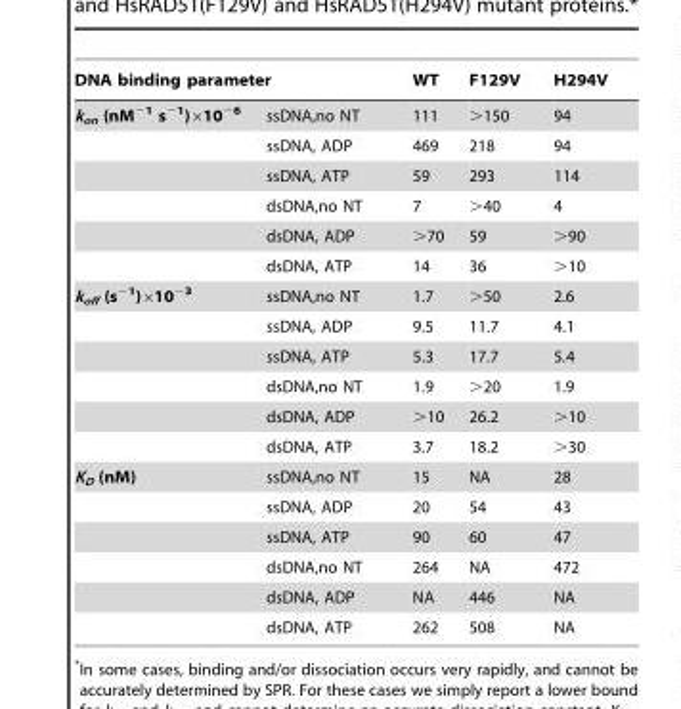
<table><thead><tr><td colspan="2">DNA binding parameter</td><td rowspan="2">WT 111</td><td rowspan="2">F129V &gt;150</td><td rowspan="2">H294V 94</td></tr><tr><td>k<sub>on</sub> (nM<sup>−1</sup> s<sup>−1</sup>)×10<sup>−6</sup></td><td>ssDNA,no NT</td></tr></thead><tbody><tr><td></td><td>ssDNA, ADP</td><td>469</td><td>218</td><td>94</td></tr><tr><td></td><td>ssDNA, ATP</td><td>59</td><td>293</td><td>114</td></tr><tr><td></td><td>dsDNA,no NT</td><td>7</td><td>&gt;40</td><td>4</td></tr><tr><td></td><td>dsDNA, ADP</td><td>&gt;70</td><td>59</td><td>&gt;90</td></tr><tr><td></td><td>dsDNA, ATP</td><td>14</td><td>36</td><td>&gt;10</td></tr><tr><td rowspan="6">k<sub>off</sub> (s<sup>−1</sup>)×10<sup>−3</sup></td><td>ssDNA,no NT</td><td>1.7</td><td>&gt;50</td><td>2.6</td></tr><tr><td>ssDNA, ADP</td><td>9.5</td><td>11.7</td><td>4.1</td></tr><tr><td>ssDNA, ATP</td><td>5.3</td><td>17.7</td><td>5.4</td></tr><tr><td>dsDNA,no NT</td><td>1.9</td><td>&gt;20</td><td>1.9</td></tr><tr><td>dsDNA, ADP</td><td>&gt;10</td><td>26.2</td><td>&gt;10</td></tr><tr><td>dsDNA, ATP</td><td>3.7</td><td>18.2</td><td>&gt;30</td></tr><tr><td rowspan="6">K<sub>D</sub> (nM)</td><td>ssDNA,no NT</td><td>15</td><td>NA</td><td>28</td></tr><tr><td>ssDNA, ADP</td><td>20</td><td>54</td><td>43</td></tr><tr><td>ssDNA, ATP</td><td>90</td><td>60</td><td>47</td></tr><tr><td>dsDNA,no NT</td><td>264</td><td>NA</td><td>472</td></tr><tr><td>dsDNA, ADP</td><td>NA</td><td>446</td><td>NA</td></tr><tr><td>dsDNA, ATP</td><td>262</td><td>508</td><td>NA</td></tr></tbody></table>